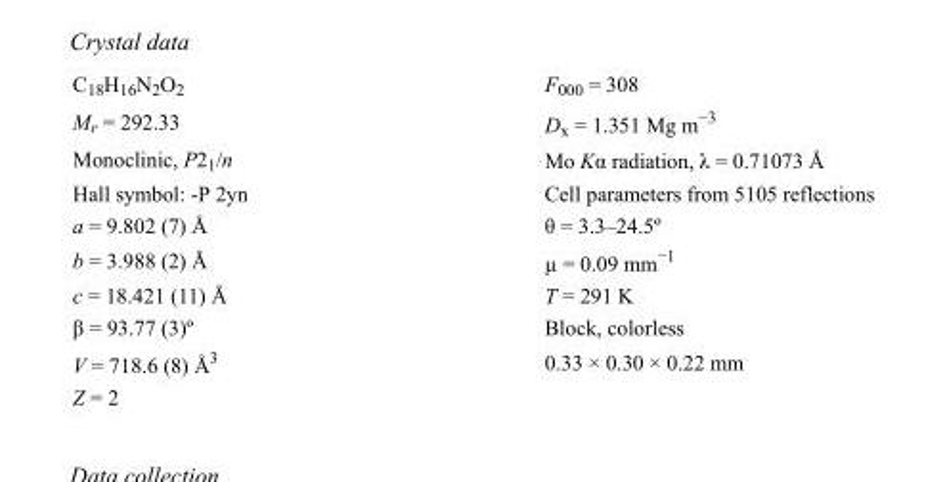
<table><tbody><tr><td>C<sub>18</sub>H<sub>16</sub>N<sub>2</sub>O<sub>2</sub></td><td>F000 = 308</td></tr><tr><td>M<sub>r</sub> = 292.33</td><td>D<sub>x</sub> = 1.351 Mg m<sup>−3</sup></td></tr><tr><td>Monoclinic, P2<sub>1</sub>/n</td><td>Mo Kα radiation, λ = 0.71073 Å</td></tr><tr><td>Hall symbol: -P 2yn</td><td>Cell parameters from 5105 reflections</td></tr><tr><td>a = 9.802 (7) Å</td><td>θ = 3.3–24.5º</td></tr><tr><td>b = 3.988 (2) Å</td><td>µ = 0.09 mm<sup>−1</sup></td></tr><tr><td>c = 18.421 (11) Å</td><td>T = 291 K</td></tr><tr><td>β = 93.77 (3)º</td><td>Block, colorless</td></tr><tr><td>V = 718.6 (8) Å<sup>3</sup></td><td>0.33 × 0.30 × 0.22 mm</td></tr><tr><td>Z = 2</td><td></td></tr></tbody></table>